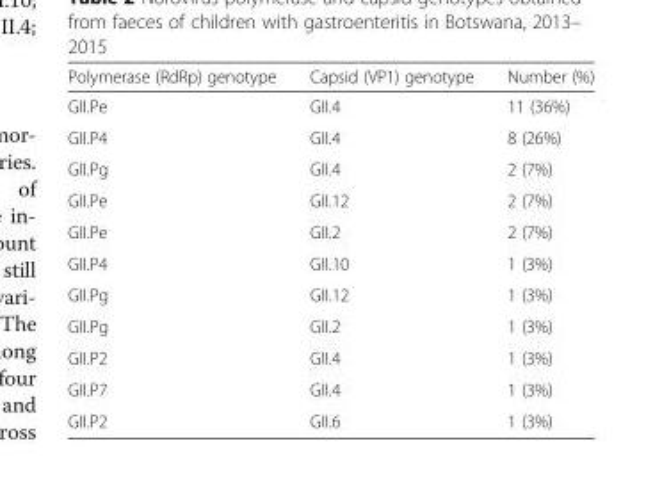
<table><thead><tr><td>Polymerase (RdRp) genotype</td><td>Capsid (VP1) genotype</td><td>Number (%)</td></tr></thead><tbody><tr><td>GII.Pe</td><td>GII.4</td><td>11 (36%)</td></tr><tr><td>GII.P4</td><td>GII.4</td><td>8 (26%)</td></tr><tr><td>GII.Pg</td><td>GII.4</td><td>2 (7%)</td></tr><tr><td>GII.Pe</td><td>GII.12</td><td>2 (7%)</td></tr><tr><td>GII.Pe</td><td>GII.2</td><td>2 (7%)</td></tr><tr><td>GII.P4</td><td>GII.10</td><td>1 (3%)</td></tr><tr><td>GII.Pg</td><td>GII.12</td><td>1 (3%)</td></tr><tr><td>GII.Pg</td><td>GII.2</td><td>1 (3%)</td></tr><tr><td>GII.P2</td><td>GII.4</td><td>1 (3%)</td></tr><tr><td>GII.P7</td><td>GII.4</td><td>1 (3%)</td></tr><tr><td>GII.P2</td><td>GII.6</td><td>1 (3%)</td></tr></tbody></table>